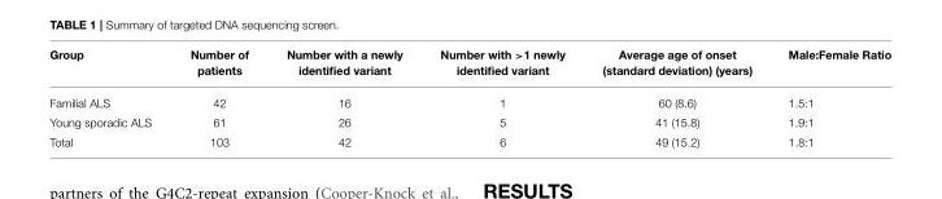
<table><thead><tr><td>Group</td><td>Number of patients</td><td>Number with a newly identified variant</td><td>Number with &gt;1 newly identified variant</td><td>Average age of onset (standard deviation) (years)</td><td>Male:Female Ratio</td></tr></thead><tbody><tr><td>Familial ALS</td><td>42</td><td>16</td><td>1</td><td>60 (8.6)</td><td>1.5:1</td></tr><tr><td>Young sporadic ALS</td><td>61</td><td>26</td><td>5</td><td>41 (15.8)</td><td>1.9:1</td></tr><tr><td>Total</td><td>103</td><td>42</td><td>6</td><td>49 (15.2)</td><td>1.8:1</td></tr></tbody></table>